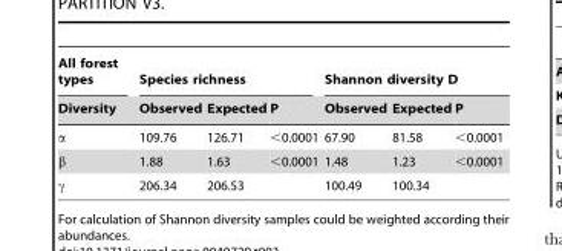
<table><thead><tr><td rowspan="2">All forest types Diversity</td><td colspan="3">Species richness</td><td colspan="3">Shannon diversity D</td></tr><tr><td>Observed</td><td>Expected</td><td>P</td><td>Observed</td><td>Expected</td><td>P</td></tr></thead><tbody><tr><td>α</td><td>109.76</td><td>126.71</td><td>&lt;0.0001</td><td>67.90</td><td>81.58</td><td>&lt;0.0001</td></tr><tr><td>β</td><td>1.88</td><td>1.63</td><td>&lt;0.0001</td><td>1.48</td><td>1.23</td><td>&lt;0.0001</td></tr><tr><td>γ</td><td>206.34</td><td>206.53</td><td></td><td>100.49</td><td>100.34</td><td></td></tr></tbody></table>